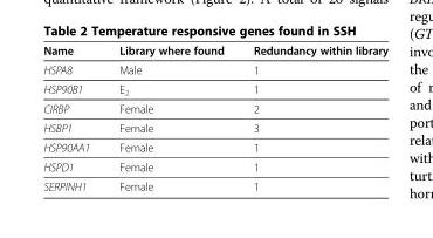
<table><thead><tr><td>Name</td><td>Library where found</td><td>Redundancy within library</td></tr></thead><tbody><tr><td>HSPA8</td><td>Male</td><td>1</td></tr><tr><td>HSP90B1</td><td>E<sub>2</sub></td><td>1</td></tr><tr><td>CIRBP</td><td>Female</td><td>2</td></tr><tr><td>HSBP1</td><td>Female</td><td>3</td></tr><tr><td>HSP90AA1</td><td>Female</td><td>1</td></tr><tr><td>HSPD1</td><td>Female</td><td>1</td></tr><tr><td>SERPINH1</td><td>Female</td><td>1</td></tr></tbody></table>